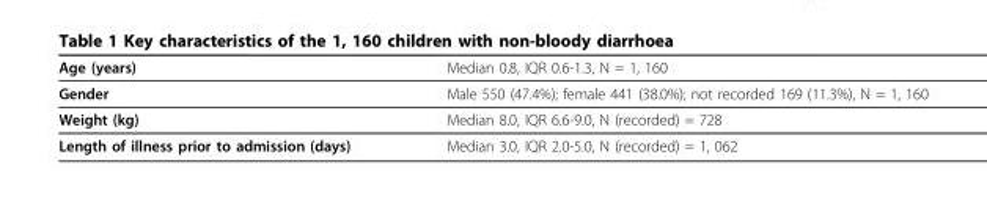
<table><thead><tr><td>Age (years)</td><td>Median 0.8, IQR 0.6-1.3, N = 1, 160</td></tr></thead><tbody><tr><td>Gender</td><td>Male 550 (47.4%); female 441 (38.0%); not recorded 169 (11.3%), N = 1, 160</td></tr><tr><td>Weight (kg)</td><td>Median 8.0, IQR 6.6-9.0, N (recorded) = 728</td></tr><tr><td>Length of illness prior to admission (days)</td><td>Median 3.0, IQR 2.0-5.0, N (recorded) = 1, 062</td></tr></tbody></table>